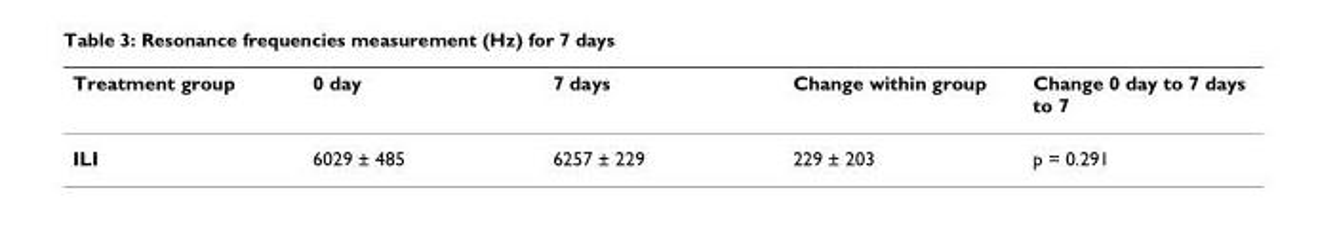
<table><thead><tr><td>Treatment group</td><td>0 day</td><td>7 days</td><td>Change within group</td><td>Change 0 day to 7 days to 7</td></tr></thead><tbody><tr><td>ILI</td><td>6029 ± 485</td><td>6257 ± 229</td><td>229 ± 203</td><td>p = 0.291</td></tr></tbody></table>